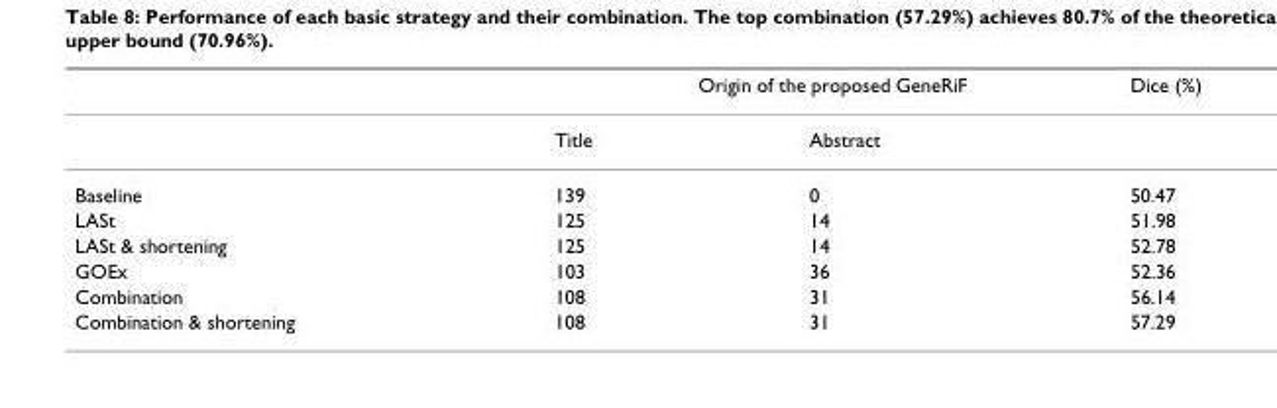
<table><thead><tr><td rowspan="2"></td><td colspan="2">Origin of the proposed GeneRiF</td><td rowspan="2">Dice (%)</td></tr><tr><td>Title</td><td>Abstract</td></tr></thead><tbody><tr><td>Baseline</td><td>139</td><td>0</td><td>50.47</td></tr><tr><td>LASt</td><td>125</td><td>14</td><td>51.98</td></tr><tr><td>LASt &amp; shortening</td><td>125</td><td>14</td><td>52.78</td></tr><tr><td>GOEx</td><td>103</td><td>36</td><td>52.36</td></tr><tr><td>Combination</td><td>108</td><td>31</td><td>56.14</td></tr><tr><td>Combination &amp; shortening</td><td>108</td><td>31</td><td>57.29</td></tr></tbody></table>